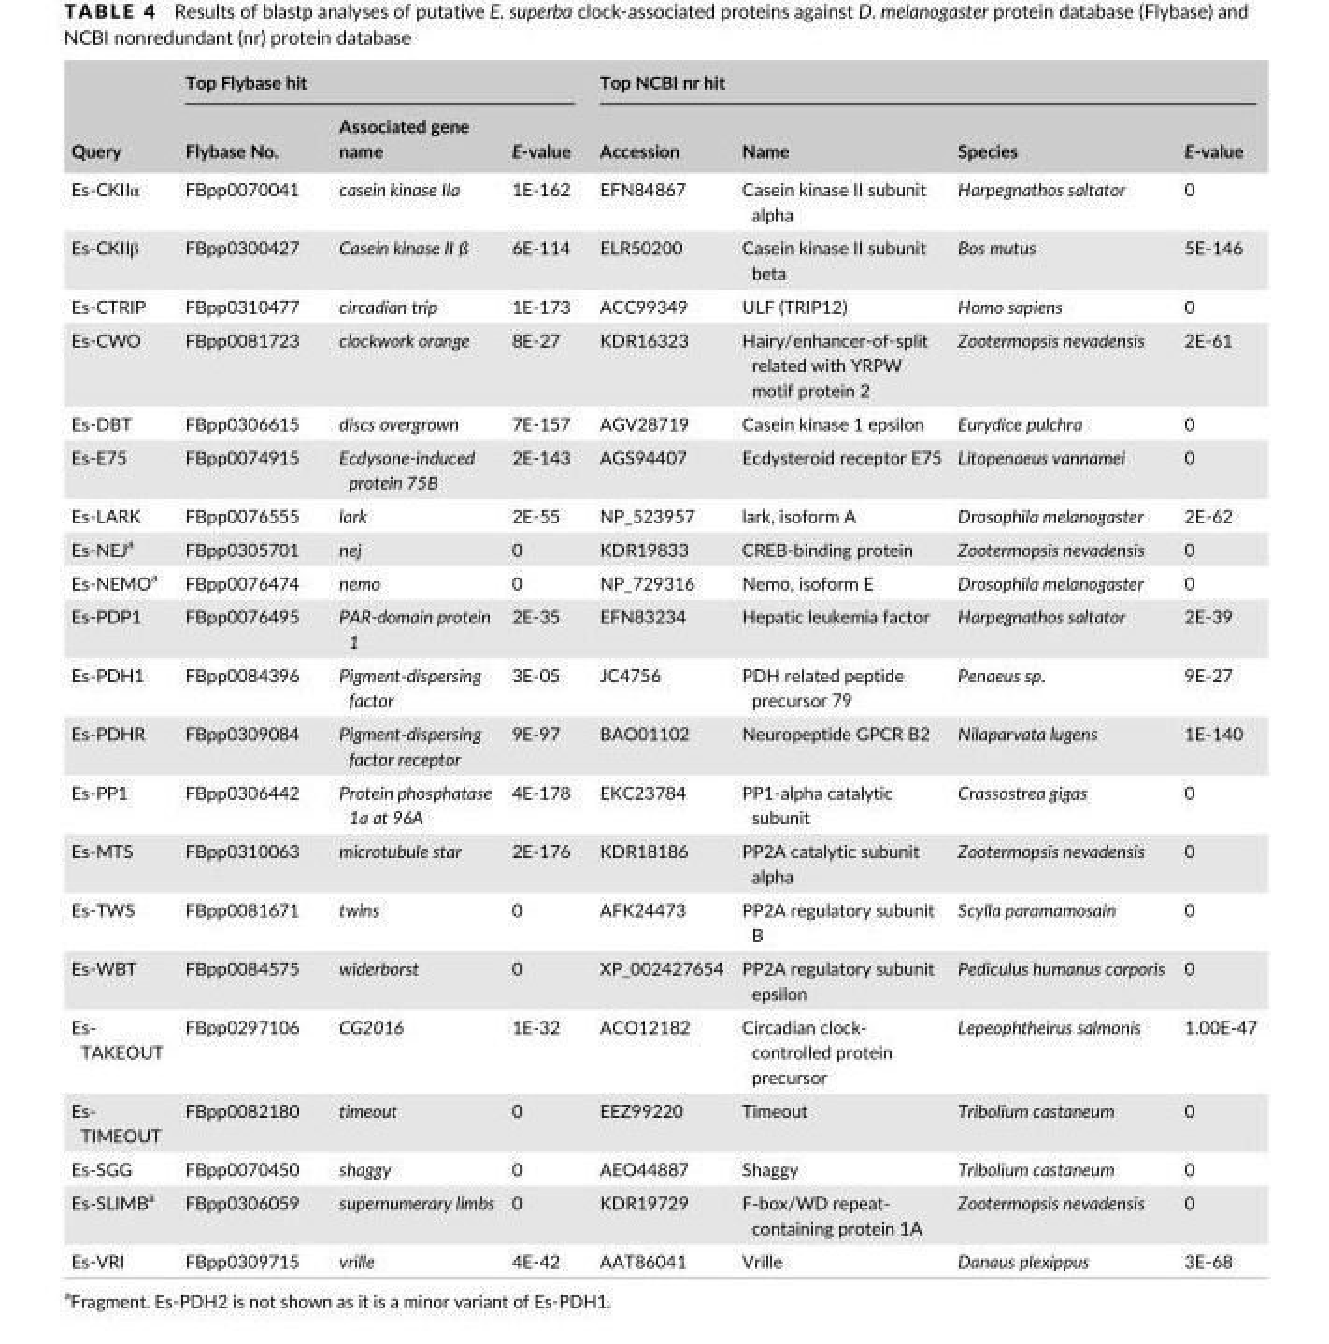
<table><thead><tr><td rowspan="2">Query</td><td colspan="3">Top Flybase hit</td><td colspan="4">Top NCBI nr hit</td></tr><tr><td>Flybase No.</td><td>Associated gene name</td><td>E- value</td><td>Accession</td><td>Name</td><td>Species</td><td>E- value</td></tr></thead><tbody><tr><td>Es- CKIIα</td><td>FBpp0070041</td><td>casein kinase IIa</td><td>1E- 162</td><td>EFN84867</td><td>Casein kinase II subunit alpha</td><td>Harpegnathos saltator</td><td>0</td></tr><tr><td>Es- CKIIβ</td><td>FBpp0300427</td><td>Casein kinase II ß</td><td>6E- 114</td><td>ELR50200</td><td>Casein kinase II subunit beta</td><td>Bos mutus</td><td>5E- 146</td></tr><tr><td>Es- CTRIP</td><td>FBpp0310477</td><td>circadian trip</td><td>1E- 173</td><td>ACC99349</td><td>ULF (TRIP12)</td><td>Homo sapiens</td><td>0</td></tr><tr><td>Es- CWO</td><td>FBpp0081723</td><td>clockwork orange</td><td>8E- 27</td><td>KDR16323</td><td>Hairy/enhancer- of- split related with YRPW motif protein 2</td><td>Zootermopsis nevadensis</td><td>2E- 61</td></tr><tr><td>Es- DBT</td><td>FBpp0306615</td><td>discs overgrown</td><td>7E- 157</td><td>AGV28719</td><td>Casein kinase 1 epsilon</td><td>Eurydice pulchra</td><td>0</td></tr><tr><td>Es- E75</td><td>FBpp0074915</td><td>Ecdysone-induced protein 75B</td><td>2E- 143</td><td>AGS94407</td><td>Ecdysteroid receptor E75</td><td>Litopenaeus vannamei</td><td>0</td></tr><tr><td>Es- LARK</td><td>FBpp0076555</td><td>lark</td><td>2E- 55</td><td>NP_523957</td><td>lark, isoform A</td><td>Drosophila melanogaster</td><td>2E- 62</td></tr><tr><td>Es- NEJ<sup>a</sup></td><td>FBpp0305701</td><td>nej</td><td>0</td><td>KDR19833</td><td>CREB- binding protein</td><td>Zootermopsis nevadensis</td><td>0</td></tr><tr><td>Es- NEMO<sup>a</sup></td><td>FBpp0076474</td><td>nemo</td><td>0</td><td>NP_729316</td><td>Nemo, isoform E</td><td>Drosophila melanogaster</td><td>0</td></tr><tr><td>Es- PDP1</td><td>FBpp0076495</td><td>PAR-domain protein 1</td><td>2E- 35</td><td>EFN83234</td><td>Hepatic leukemia factor</td><td>Harpegnathos saltator</td><td>2E- 39</td></tr><tr><td>Es- PDH1</td><td>FBpp0084396</td><td>Pigment-dispersing factor</td><td>3E- 05</td><td>JC4756</td><td>PDH related peptide precursor 79</td><td>Penaeus sp.</td><td>9E- 27</td></tr><tr><td>Es- PDHR</td><td>FBpp0309084</td><td>Pigment-dispersing factor receptor</td><td>9E- 97</td><td>BAO01102</td><td>Neuropeptide GPCR B2</td><td>Nilaparvata lugens</td><td>1E- 140</td></tr><tr><td>Es- PP1</td><td>FBpp0306442</td><td>Protein phosphatase 1a at 96A</td><td>4E- 178</td><td>EKC23784</td><td>PP1- alpha catalytic subunit</td><td>Crassostrea gigas</td><td>0</td></tr><tr><td>Es- MTS</td><td>FBpp0310063</td><td>microtubule star</td><td>2E- 176</td><td>KDR18186</td><td>PP2A catalytic subunit alpha</td><td>Zootermopsis nevadensis</td><td>0</td></tr><tr><td>Es- TWS</td><td>FBpp0081671</td><td>twins</td><td>0</td><td>AFK24473</td><td>PP2A regulatory subunit B</td><td>Scylla paramamosain</td><td>0</td></tr><tr><td>Es- WBT</td><td>FBpp0084575</td><td>widerborst</td><td>0</td><td>XP_002427654</td><td>PP2A regulatory subunit epsilon</td><td>Pediculus humanus corporis</td><td>0</td></tr><tr><td>Es- TAKEOUT</td><td>FBpp0297106</td><td>CG2016</td><td>1E- 32</td><td>ACO12182</td><td>Circadian clock- controlled protein precursor</td><td>Lepeophtheirus salmonis</td><td>1.00E- 47</td></tr><tr><td>Es- TIMEOUT</td><td>FBpp0082180</td><td>timeout</td><td>0</td><td>EEZ99220</td><td>Timeout</td><td>Tribolium castaneum</td><td>0</td></tr><tr><td>Es- SGG</td><td>FBpp0070450</td><td>shaggy</td><td>0</td><td>AEO44887</td><td>Shaggy</td><td>Tribolium castaneum</td><td>0</td></tr><tr><td>Es- SLIMB<sup>a</sup></td><td>FBpp0306059</td><td>supernumerary limbs</td><td>0</td><td>KDR19729</td><td>F- box/WD repeat- containing protein 1A</td><td>Zootermopsis nevadensis</td><td>0</td></tr><tr><td>Es- VRI</td><td>FBpp0309715</td><td>vrille</td><td>4E- 42</td><td>AAT86041</td><td>Vrille</td><td>Danaus plexippus</td><td>3E- 68</td></tr></tbody></table>